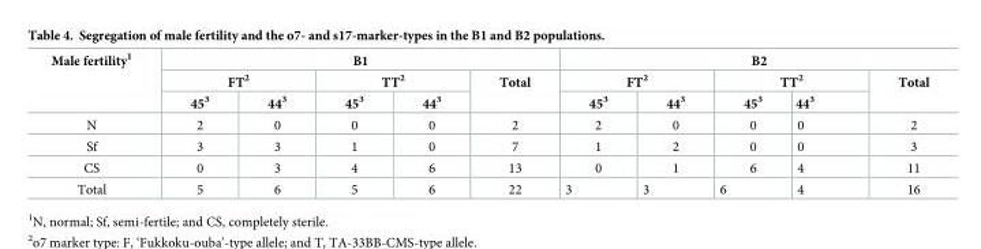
<table><thead><tr><td rowspan="3">Male fertility<sup>1</sup></td><td colspan="5">B1</td><td colspan="5">B2</td></tr><tr><td colspan="2">FT<sup>2</sup></td><td colspan="2">TT<sup>2</sup></td><td rowspan="2">Total</td><td colspan="2">FT<sup>2</sup></td><td colspan="2">TT<sup>2</sup></td><td rowspan="2">Total</td></tr><tr><td>45<sup>3</sup></td><td>44<sup>3</sup></td><td>45<sup>3</sup></td><td>44<sup>3</sup></td><td>45<sup>3</sup></td><td>44<sup>3</sup></td><td>45<sup>3</sup></td><td>44<sup>3</sup></td></tr></thead><tbody><tr><td>N</td><td>2</td><td>0</td><td>0</td><td>0</td><td>2</td><td>2</td><td>0</td><td>0</td><td>0</td><td>2</td></tr><tr><td>Sf</td><td>3</td><td>3</td><td>1</td><td>0</td><td>7</td><td>1</td><td>2</td><td>0</td><td>0</td><td>3</td></tr><tr><td>CS</td><td>0</td><td>3</td><td>4</td><td>6</td><td>13</td><td>0</td><td>1</td><td>6</td><td>4</td><td>11</td></tr><tr><td>Total</td><td>5</td><td>6</td><td>5</td><td>6</td><td>22</td><td>3</td><td>3</td><td>6</td><td>4</td><td>16</td></tr></tbody></table>